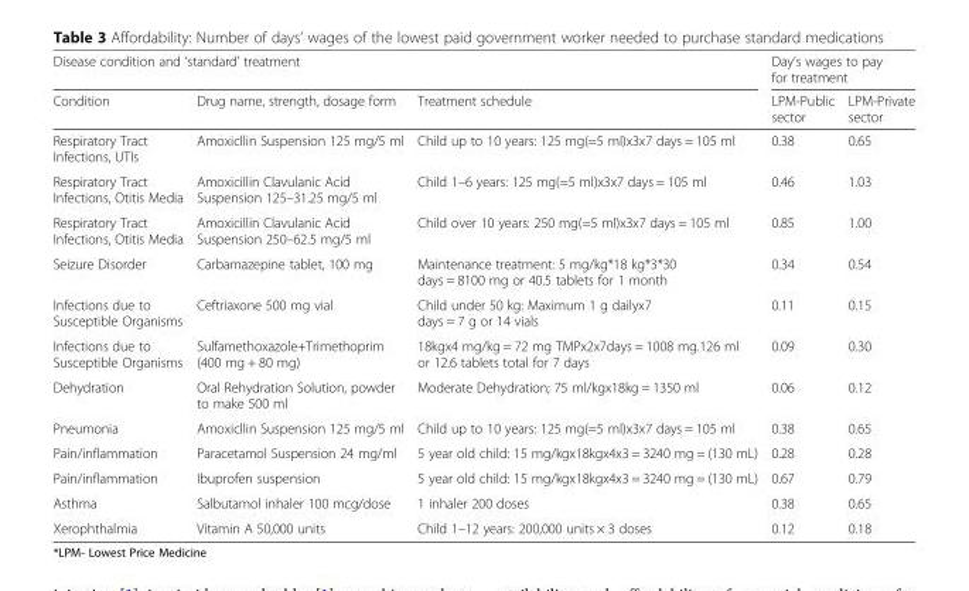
<table><thead><tr><td colspan="3">Disease condition and ‘standard’ treatment</td><td colspan="2">Day’s wages to pay for treatment</td></tr><tr><td>Condition</td><td>Drug name, strength, dosage form</td><td>Treatment schedule</td><td>LPM-Public sector</td><td>LPM-Private sector</td></tr></thead><tbody><tr><td>Respiratory Tract Infections, UTIs</td><td>Amoxicllin Suspension 125 mg/5 ml</td><td>Child up to 10 years: 125 mg(=5 ml)x3x7 days = 105 ml</td><td>0.38</td><td>0.65</td></tr><tr><td>Respiratory Tract Infections, Otitis Media</td><td>Amoxicillin Clavulanic Acid Suspension 125–31.25 mg/5 ml</td><td>Child 1–6 years: 125 mg(=5 ml)x3x7 days = 105 ml</td><td>0.46</td><td>1.03</td></tr><tr><td>Respiratory Tract Infections, Otitis Media</td><td>Amoxicillin Clavulanic Acid Suspension 250–62.5 mg/5 ml</td><td>Child over 10 years: 250 mg(=5 ml)x3x7 days = 105 ml</td><td>0.85</td><td>1.00</td></tr><tr><td>Seizure Disorder</td><td>Carbamazepine tablet, 100 mg</td><td>Maintenance treatment: 5 mg/kg*18 kg*3*30 days = 8100 mg or 40.5 tablets for 1 month</td><td>0.34</td><td>0.54</td></tr><tr><td>Infections due to Susceptible Organisms</td><td>Ceftriaxone 500 mg vial</td><td>Child under 50 kg: Maximum 1 g dailyx7 days = 7 g or 14 vials</td><td>0.11</td><td>0.15</td></tr><tr><td>Infections due to Susceptible Organisms</td><td>Sulfamethoxazole+Trimethoprim (400 mg + 80 mg)</td><td>18kgx4 mg/kg = 72 mg TMPx2x7days = 1008 mg.126 ml or 12.6 tablets total for 7 days</td><td>0.09</td><td>0.30</td></tr><tr><td>Dehydration</td><td>Oral Rehydration Solution, powder to make 500 ml</td><td>Moderate Dehydration; 75 ml/kgx18kg = 1350 ml</td><td>0.06</td><td>0.12</td></tr><tr><td>Pneumonia</td><td>Amoxicllin Suspension 125 mg/5 ml</td><td>Child up to 10 years: 125 mg(=5 ml)x3x7 days = 105 ml</td><td>0.38</td><td>0.65</td></tr><tr><td>Pain/inflammation</td><td>Paracetamol Suspension 24 mg/ml</td><td>5 year old child: 15 mg/kgx18kgx4x3 = 3240 mg = (130 mL)</td><td>0.28</td><td>0.28</td></tr><tr><td>Pain/inflammation</td><td>Ibuprofen suspension</td><td>5 year old child: 15 mg/kgx18kgx4x3 = 3240 mg = (130 mL)</td><td>0.67</td><td>0.79</td></tr><tr><td>Asthma</td><td>Salbutamol inhaler 100 mcg/dose</td><td>1 inhaler 200 doses</td><td>0.38</td><td>0.65</td></tr><tr><td>Xerophthalmia</td><td>Vitamin A 50,000 units</td><td>Child 1–12 years: 200,000 units × 3 doses</td><td>0.12</td><td>0.18</td></tr></tbody></table>